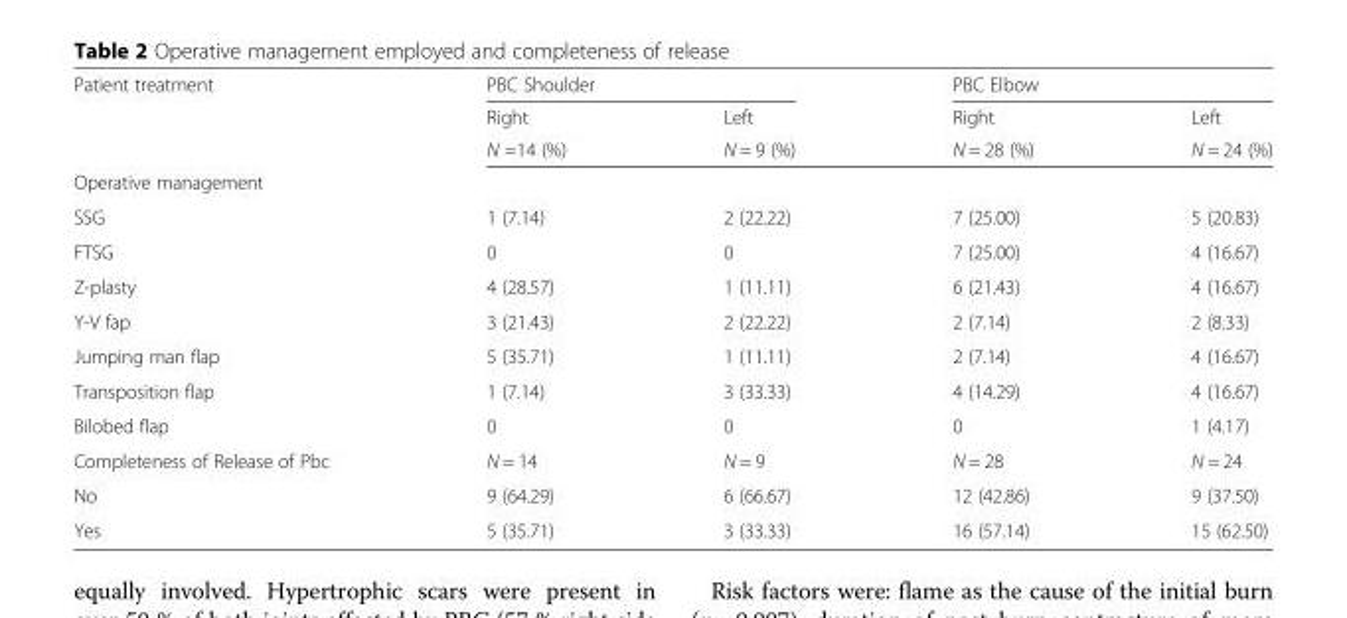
<table><thead><tr><td rowspan="3">Patient treatment</td><td colspan="2">PBC Shoulder</td><td colspan="2">PBC Elbow</td></tr><tr><td rowspan="2">Right N =14 (%)</td><td rowspan="2">Left N = 9 (%)</td><td rowspan="2">Right N = 28 (%)</td><td rowspan="2">Left N = 24 (%)</td></tr><tr></tr></thead><tbody><tr><td colspan="5">Operative management</td></tr><tr><td>SSG</td><td>1 (7.14)</td><td>2 (22.22)</td><td>7 (25.00)</td><td>5 (20.83)</td></tr><tr><td>FTSG</td><td>0</td><td>0</td><td>7 (25.00)</td><td>4 (16.67)</td></tr><tr><td>Z-plasty</td><td>4 (28.57)</td><td>1 (11.11)</td><td>6 (21.43)</td><td>4 (16.67)</td></tr><tr><td>Y-V fap</td><td>3 (21.43)</td><td>2 (22.22)</td><td>2 (7.14)</td><td>2 (8.33)</td></tr><tr><td>Jumping man flap</td><td>5 (35.71)</td><td>1 (11.11)</td><td>2 (7.14)</td><td>4 (16.67)</td></tr><tr><td>Transposition flap</td><td>1 (7.14)</td><td>3 (33.33)</td><td>4 (14.29)</td><td>4 (16.67)</td></tr><tr><td>Bilobed flap</td><td>0</td><td>0</td><td>0</td><td>1 (4.17)</td></tr><tr><td>Completeness of Release of Pbc</td><td>N = 14</td><td>N = 9</td><td>N = 28</td><td>N = 24</td></tr><tr><td>No</td><td>9 (64.29)</td><td>6 (66.67)</td><td>12 (42.86)</td><td>9 (37.50)</td></tr><tr><td>Yes</td><td>5 (35.71)</td><td>3 (33.33)</td><td>16 (57.14)</td><td>15 (62.50)</td></tr></tbody></table>